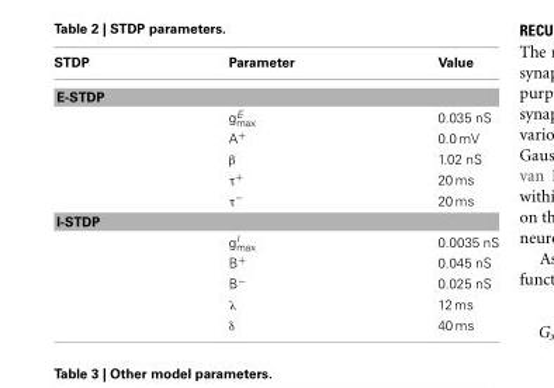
<table><thead><tr><td>STDP</td><td>Parameter</td><td>Value</td></tr></thead><tbody><tr><td colspan="3">E-STDP</td></tr><tr><td></td><td>g<sup>E</sup> <sub>max</sub></td><td>0.035 nS</td></tr><tr><td></td><td>A<sup>+</sup></td><td>0.0 mV</td></tr><tr><td></td><td>β</td><td>1.02 nS</td></tr><tr><td></td><td>τ<sup>+</sup></td><td>20 ms</td></tr><tr><td></td><td>τ<sup>−</sup></td><td>20 ms</td></tr><tr><td colspan="3">I-STDP</td></tr><tr><td></td><td>g<sup>l</sup> <sub>max</sub></td><td>0.0035 nS</td></tr><tr><td></td><td>B<sup>+</sup></td><td>0.045 nS</td></tr><tr><td></td><td>B<sup>−</sup></td><td>0.025 nS</td></tr><tr><td></td><td>λ</td><td>12 ms</td></tr><tr><td></td><td>δ</td><td>40 ms</td></tr></tbody></table>